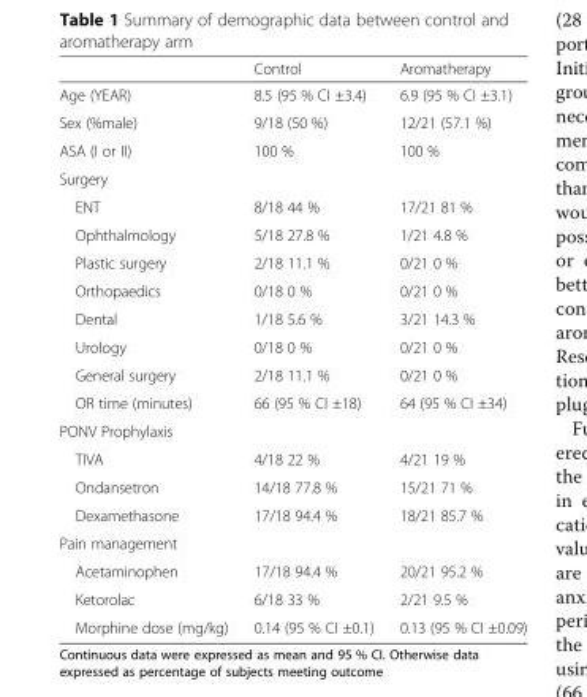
<table><thead><tr><td></td><td>Control</td><td>Aromatherapy</td></tr></thead><tbody><tr><td>Age (YEAR)</td><td>8.5 (95 % CI ±3.4)</td><td>6.9 (95 % CI ±3.1)</td></tr><tr><td>Sex (%male)</td><td>9/18 (50 %)</td><td>12/21 (57.1 %)</td></tr><tr><td>ASA (I or II)</td><td>100 %</td><td>100 %</td></tr><tr><td colspan="3">Surgery</td></tr><tr><td>ENT</td><td>8/18 44 %</td><td>17/21 81 %</td></tr><tr><td>Ophthalmology</td><td>5/18 27.8 %</td><td>1/21 4.8 %</td></tr><tr><td>Plastic surgery</td><td>2/18 11.1 %</td><td>0/21 0 %</td></tr><tr><td>Orthopaedics</td><td>0/18 0 %</td><td>0/21 0 %</td></tr><tr><td>Dental</td><td>1/18 5.6 %</td><td>3/21 14.3 %</td></tr><tr><td>Urology</td><td>0/18 0 %</td><td>0/21 0 %</td></tr><tr><td>General surgery</td><td>2/18 11.1 %</td><td>0/21 0 %</td></tr><tr><td>OR time (minutes)</td><td>66 (95 % CI ±18)</td><td>64 (95 % CI ±34)</td></tr><tr><td colspan="3">PONV Prophylaxis</td></tr><tr><td>TIVA</td><td>4/18 22 %</td><td>4/21 19 %</td></tr><tr><td>Ondansetron</td><td>14/18 77.8 %</td><td>15/21 71 %</td></tr><tr><td>Dexamethasone</td><td>17/18 94.4 %</td><td>18/21 85.7 %</td></tr><tr><td colspan="3">Pain management</td></tr><tr><td>Acetaminophen</td><td>17/18 94.4 %</td><td>20/21 95.2 %</td></tr><tr><td>Ketorolac</td><td>6/18 33 %</td><td>2/21 9.5 %</td></tr><tr><td>Morphine dose (mg/kg)</td><td>0.14 (95 % CI ±0.1)</td><td>0.13 (95 % CI ±0.09)</td></tr></tbody></table>